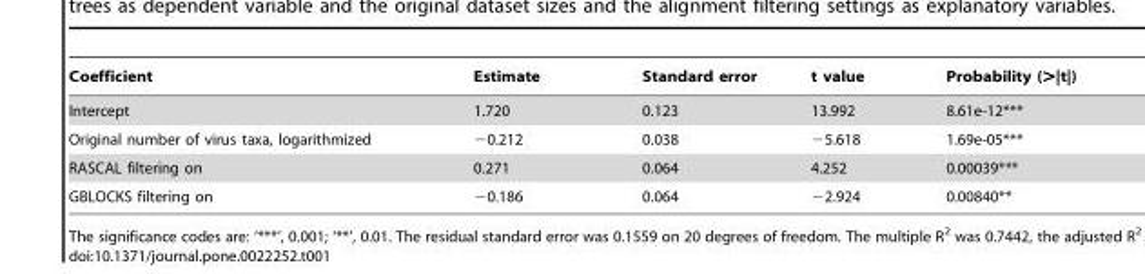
<table><thead><tr><td>Coefficient</td><td>Estimate</td><td>Standard error</td><td>t value</td><td>Probability (&gt;|t|)</td></tr></thead><tbody><tr><td>Intercept</td><td>1.720</td><td>0.123</td><td>13.992</td><td>8.61e-12***</td></tr><tr><td>Original number of virus taxa, logarithmized</td><td>−0.212</td><td>0.038</td><td>−5.618</td><td>1.69e-05***</td></tr><tr><td>RASCAL filtering on</td><td>0.271</td><td>0.064</td><td>4.252</td><td>0.00039***</td></tr><tr><td>GBLOCKS filtering on</td><td>−0.186</td><td>0.064</td><td>−2.924</td><td>0.00840**</td></tr></tbody></table>